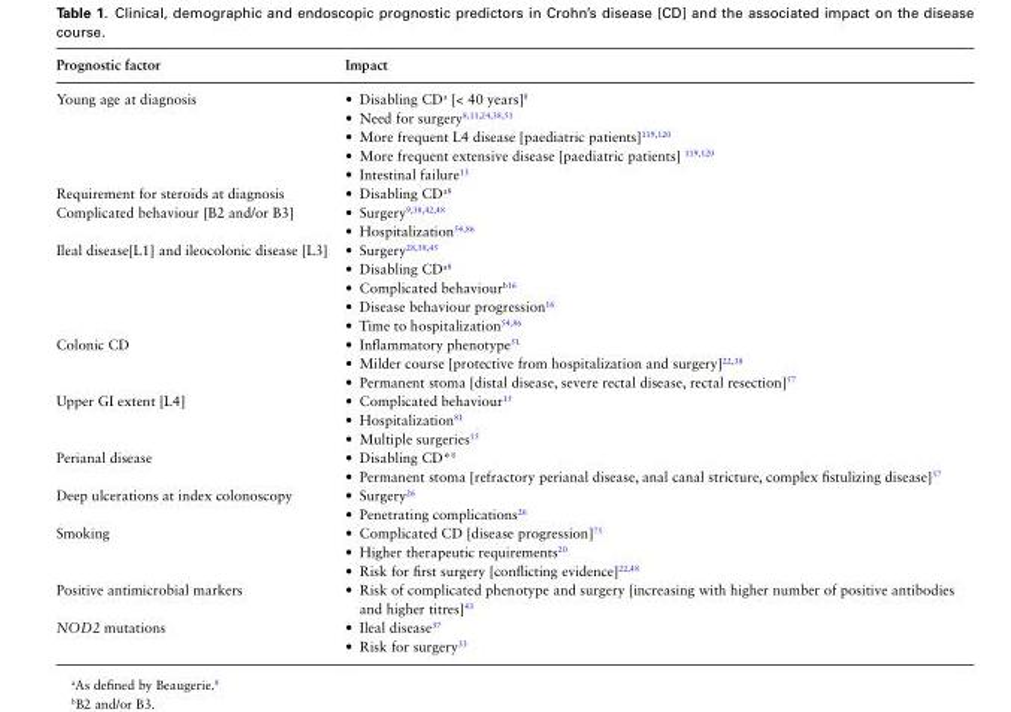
<table><thead><tr><td>Prognostic factor</td><td>Impact</td></tr></thead><tbody><tr><td>Young age at diagnosis</td><td>• Disabling CD<sup>a</sup> [&lt; 40 years]<sup>8</sup> • Need for surgery<sup>8,11,24,38,51</sup> • More frequent L4 disease [paediatric patients]<sup>119,120</sup> • More frequent extensive disease [paediatric patients] <sup>119,120</sup> • Intestinal failure<sup>13</sup></td></tr><tr><td>Requirement for steroids at diagnosis</td><td>• Disabling CD<sup>a8</sup></td></tr><tr><td>Complicated behaviour [B2 and/or B3]</td><td>• Surgery<sup>9,38,42,48</sup> • Hospitalization<sup>54,86</sup></td></tr><tr><td>Ileal disease[L1] and ileocolonic disease [L3]</td><td>• Surgery<sup>28,38,45</sup> • Disabling CD<sup>a8</sup> • Complicated behaviour<sup>b16</sup> • Disease behaviour progression<sup>16</sup> • Time to hospitalization<sup>54,86</sup></td></tr><tr><td>Colonic CD</td><td>• Inflammatory phenotype<sup>51</sup> • Milder course [protective from hospitalization and surgery]<sup>22,38</sup> • Permanent stoma [distal disease, severe rectal disease, rectal resection]<sup>57</sup></td></tr><tr><td>Upper GI extent [L4]</td><td>• Complicated behaviour<sup>15</sup> • Hospitalization<sup>81</sup> • Multiple surgeries<sup>15</sup></td></tr><tr><td>Perianal disease</td><td>• Disabling CD*<sup>8</sup> • Permanent stoma [refractory perianal disease, anal canal stricture, complex fistulizing disease]<sup>57</sup></td></tr><tr><td>Deep ulcerations at index colonoscopy</td><td>• Surgery<sup>26</sup> • Penetrating complications<sup>26</sup></td></tr><tr><td>Smoking</td><td>• Complicated CD [disease progression]<sup>75</sup> • Higher therapeutic requirements<sup>20</sup> • Risk for first surgery [conflicting evidence]<sup>22,48</sup></td></tr><tr><td>Positive antimicrobial markers</td><td>• Risk of complicated phenotype and surgery [increasing with higher number of positive antibodies and higher titres]<sup>43</sup></td></tr><tr><td>NOD2 mutations</td><td>• Ileal disease<sup>37</sup> • Risk for surgery<sup>33</sup></td></tr></tbody></table>